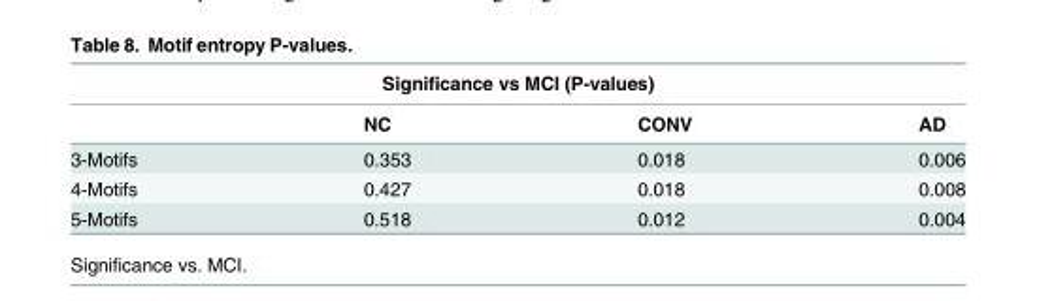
<table><thead><tr><td colspan="4">Significance vs MCI (P-values)</td></tr><tr><td></td><td>NC</td><td>CONV</td><td>AD</td></tr></thead><tbody><tr><td>3-Motifs</td><td>0.353</td><td>0.018</td><td>0.006</td></tr><tr><td>4-Motifs</td><td>0.427</td><td>0.018</td><td>0.008</td></tr><tr><td>5-Motifs</td><td>0.518</td><td>0.012</td><td>0.004</td></tr></tbody></table>